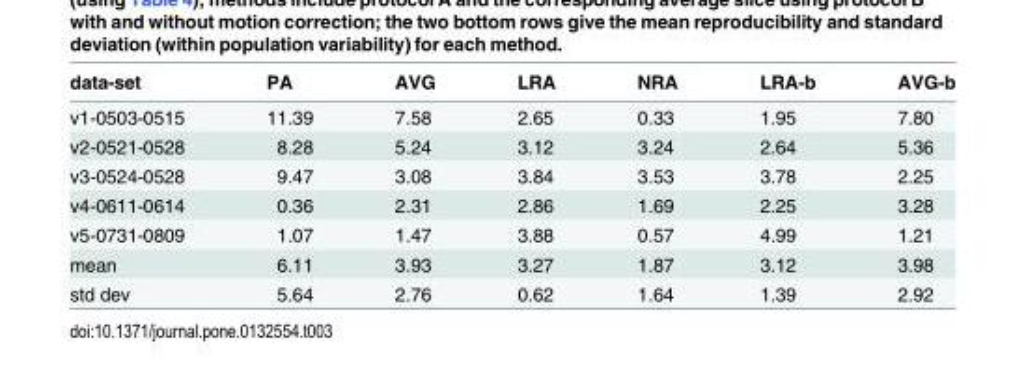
<table><thead><tr><td>data-set</td><td>PA</td><td>AVG</td><td>LRA</td><td>NRA</td><td>LRA-b</td><td>AVG-b</td></tr></thead><tbody><tr><td>v1-0503-0515</td><td>11.39</td><td>7.58</td><td>2.65</td><td>0.33</td><td>1.95</td><td>7.80</td></tr><tr><td>v2-0521-0528</td><td>8.28</td><td>5.24</td><td>3.12</td><td>3.24</td><td>2.64</td><td>5.36</td></tr><tr><td>v3-0524-0528</td><td>9.47</td><td>3.08</td><td>3.84</td><td>3.53</td><td>3.78</td><td>2.25</td></tr><tr><td>v4-0611-0614</td><td>0.36</td><td>2.31</td><td>2.86</td><td>1.69</td><td>2.25</td><td>3.28</td></tr><tr><td>v5-0731-0809</td><td>1.07</td><td>1.47</td><td>3.88</td><td>0.57</td><td>4.99</td><td>1.21</td></tr><tr><td>mean</td><td>6.11</td><td>3.93</td><td>3.27</td><td>1.87</td><td>3.12</td><td>3.98</td></tr><tr><td>std dev</td><td>5.64</td><td>2.76</td><td>0.62</td><td>1.64</td><td>1.39</td><td>2.92</td></tr></tbody></table>